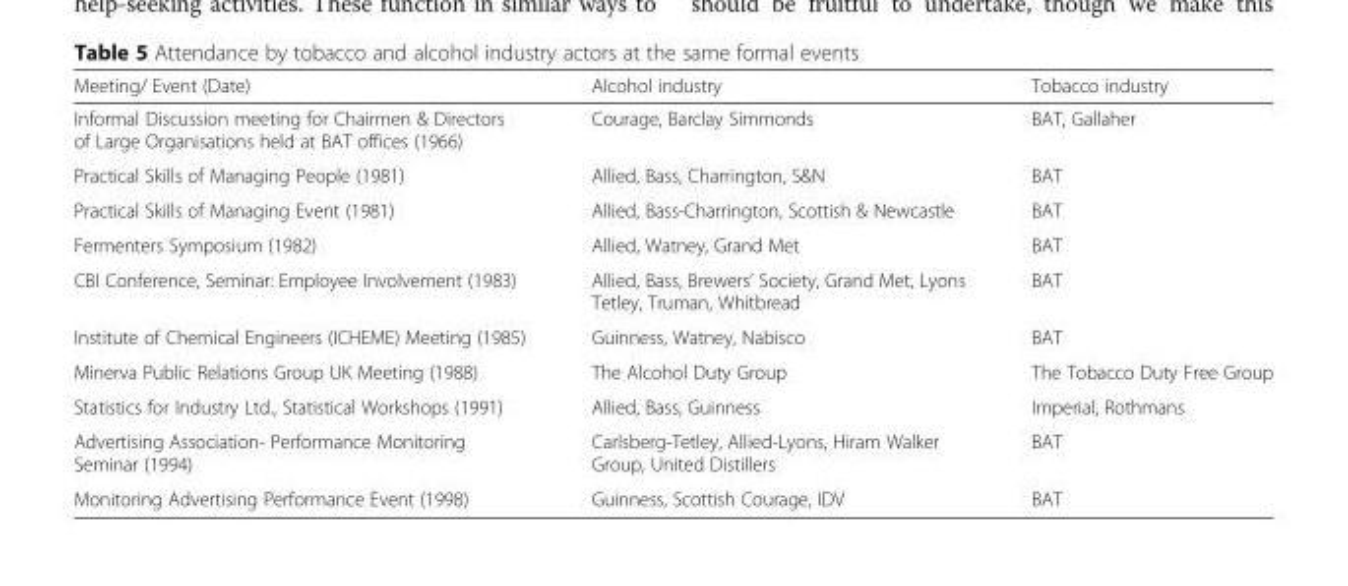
<table><thead><tr><td>Meeting/ Event (Date)</td><td>Alcohol industry</td><td>Tobacco industry</td></tr></thead><tbody><tr><td>Informal Discussion meeting for Chairmen &amp; Directors of Large Organisations held at BAT offices (1966)</td><td>Courage, Barclay Simmonds</td><td>BAT, Gallaher</td></tr><tr><td>Practical Skills of Managing People (1981)</td><td>Allied, Bass, Charrington, S&amp;N</td><td>BAT</td></tr><tr><td>Practical Skills of Managing Event (1981)</td><td>Allied, Bass-Charrington, Scottish &amp; Newcastle</td><td>BAT</td></tr><tr><td>Fermenters Symposium (1982)</td><td>Allied, Watney, Grand Met</td><td>BAT</td></tr><tr><td>CBI Conference, Seminar: Employee Involvement (1983)</td><td>Allied, Bass, Brewers’ Society, Grand Met, Lyons Tetley, Truman, Whitbread</td><td>BAT</td></tr><tr><td>Institute of Chemical Engineers (ICHEME) Meeting (1985)</td><td>Guinness, Watney, Nabisco</td><td>BAT</td></tr><tr><td>Minerva Public Relations Group UK Meeting (1988)</td><td>The Alcohol Duty Group</td><td>The Tobacco Duty Free Group</td></tr><tr><td>Statistics for Industry Ltd., Statistical Workshops (1991)</td><td>Allied, Bass, Guinness</td><td>Imperial, Rothmans</td></tr><tr><td>Advertising Association- Performance Monitoring Seminar (1994)</td><td>Carlsberg-Tetley, Allied-Lyons, Hiram Walker Group, United Distillers</td><td>BAT</td></tr><tr><td>Monitoring Advertising Performance Event (1998)</td><td>Guinness, Scottish Courage, IDV</td><td>BAT</td></tr></tbody></table>